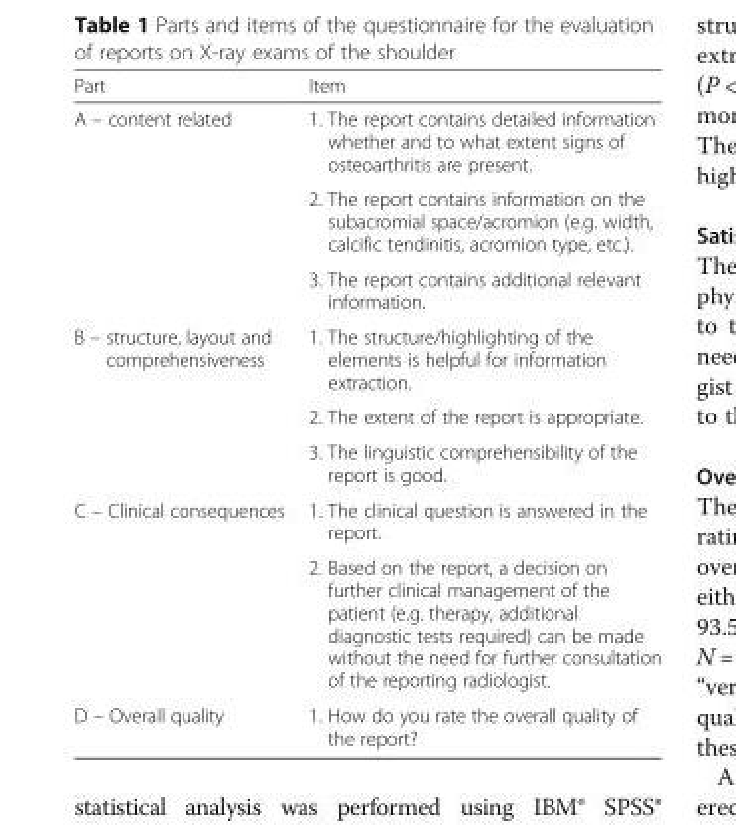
<table><thead><tr><td>Part</td><td>Item</td></tr></thead><tbody><tr><td rowspan="3">A – content related</td><td>1. The report contains detailed information whether and to what extent signs of osteoarthritis are present.</td></tr><tr><td>2. The report contains information on the subacromial space/acromion (e.g. width, calcific tendinitis, acromion type, etc.).</td></tr><tr><td>3. The report contains additional relevant information.</td></tr><tr><td rowspan="3">B – structure, layout and comprehensiveness</td><td>1. The structure/highlighting of the elements is helpful for information extraction.</td></tr><tr><td>2. The extent of the report is appropriate.</td></tr><tr><td>3. The linguistic comprehensibility of the report is good.</td></tr><tr><td rowspan="2">C – Clinical consequences</td><td>1. The clinical question is answered in the report.</td></tr><tr><td>2. Based on the report, a decision on further clinical management of the patient (e.g. therapy, additional diagnostic tests required) can be made without the need for further consultation of the reporting radiologist.</td></tr><tr><td>D – Overall quality</td><td>1. How do you rate the overall quality of the report?</td></tr></tbody></table>